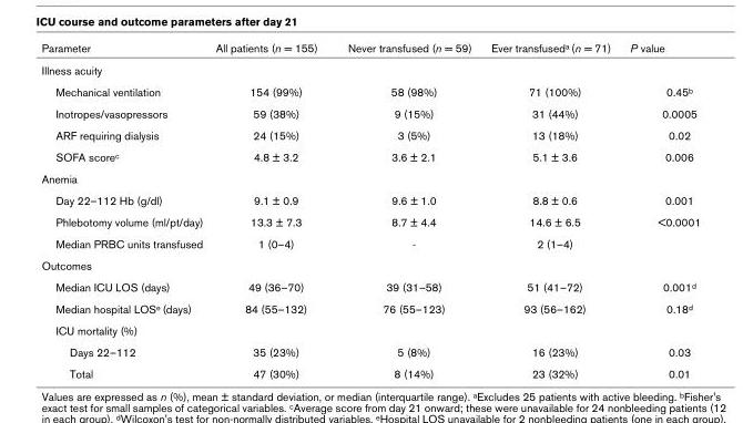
<table><thead><tr><td>Parameter</td><td>All patients (n = 155)</td><td>Never transfused (n = 59)</td><td>Ever transfuseda (n = 71)</td><td>P value</td></tr></thead><tbody><tr><td colspan="5">Illness acuity</td></tr><tr><td>Mechanical ventilation</td><td>154 (99%)</td><td>58 (98%)</td><td>71 (100%)</td><td>0.45b</td></tr><tr><td>Inotropes/vasopressors</td><td>59 (38%)</td><td>9 (15%)</td><td>31 (44%)</td><td>0.0005</td></tr><tr><td>ARF requiring dialysis</td><td>24 (15%)</td><td>3 (5%)</td><td>13 (18%)</td><td>0.02</td></tr><tr><td>SOFA scorec</td><td>4.8 ± 3.2</td><td>3.6 ± 2.1</td><td>5.1 ± 3.6</td><td>0.006</td></tr><tr><td colspan="5">Anemia</td></tr><tr><td>Day 22–112 Hb (g/dl)</td><td>9.1 ± 0.9</td><td>9.6 ± 1.0</td><td>8.8 ± 0.6</td><td>0.001</td></tr><tr><td>Phlebotomy volume (ml/pt/day)</td><td>13.3 ± 7.3</td><td>8.7 ± 4.4</td><td>14.6 ± 6.5</td><td>&lt;0.0001</td></tr><tr><td>Median PRBC units transfused</td><td>1 (0–4)</td><td>-</td><td>2 (1–4)</td><td></td></tr><tr><td colspan="5">Outcomes</td></tr><tr><td>Median ICU LOS (days)</td><td>49 (36–70)</td><td>39 (31–58)</td><td>51 (41–72)</td><td>0.001d</td></tr><tr><td>Median hospital LOSe (days)</td><td>84 (55–132)</td><td>76 (55–123)</td><td>93 (56–162)</td><td>0.18d</td></tr><tr><td colspan="5">ICU mortality (%)</td></tr><tr><td>Days 22–112</td><td>35 (23%)</td><td>5 (8%)</td><td>16 (23%)</td><td>0.03</td></tr><tr><td>Total</td><td>47 (30%)</td><td>8 (14%)</td><td>23 (32%)</td><td>0.01</td></tr></tbody></table>